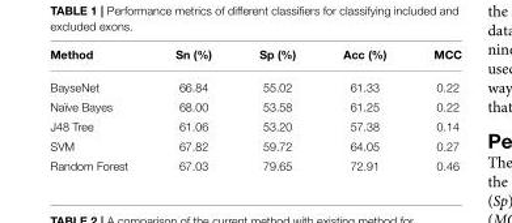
<table><thead><tr><td>Method</td><td>Sn (%)</td><td>Sp (%)</td><td>Acc (%)</td><td>MCC</td></tr></thead><tbody><tr><td>BayseNet</td><td>66.84</td><td>55.02</td><td>61.33</td><td>0.22</td></tr><tr><td>Naïve Bayes</td><td>68.00</td><td>53.58</td><td>61.25</td><td>0.22</td></tr><tr><td>J48 Tree</td><td>61.06</td><td>53.20</td><td>57.38</td><td>0.14</td></tr><tr><td>SVM</td><td>67.82</td><td>59.72</td><td>64.05</td><td>0.27</td></tr><tr><td>Random Forest</td><td>67.03</td><td>79.65</td><td>72.91</td><td>0.46</td></tr></tbody></table>